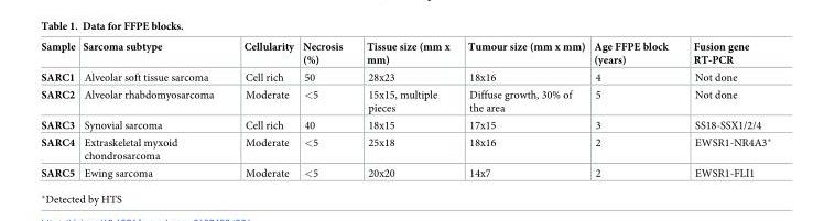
<table><thead><tr><td>Sample</td><td>Sarcoma subtype</td><td>Cellularity</td><td>Necrosis (%)</td><td>Tissue size (mm x mm)</td><td>Tumour size (mm x mm)</td><td>Age FFPE block (years)</td><td>Fusion gene RT-PCR</td></tr></thead><tbody><tr><td>SARC1</td><td>Alveolar soft tissue sarcoma</td><td>Cell rich</td><td>50</td><td>28x23</td><td>18x16</td><td>4</td><td>Not done</td></tr><tr><td>SARC2</td><td>Alveolar rhabdomyosarcoma</td><td>Moderate</td><td>&lt;5</td><td>15x15, multiple pieces</td><td>Diffuse growth, 30% of the area</td><td>5</td><td>Not done</td></tr><tr><td>SARC3</td><td>Synovial sarcoma</td><td>Cell rich</td><td>40</td><td>18x15</td><td>17x15</td><td>3</td><td>SS18-SSX1/2/4</td></tr><tr><td>SARC4</td><td>Extraskeletal myxoid chondrosarcoma</td><td>Moderate</td><td>&lt;5</td><td>25x18</td><td>18x16</td><td>2</td><td>EWSR1-NR4A3*</td></tr><tr><td>SARC5</td><td>Ewing sarcoma</td><td>Moderate</td><td>&lt;5</td><td>20x20</td><td>14x7</td><td>2</td><td>EWSR1-FLI1</td></tr></tbody></table>